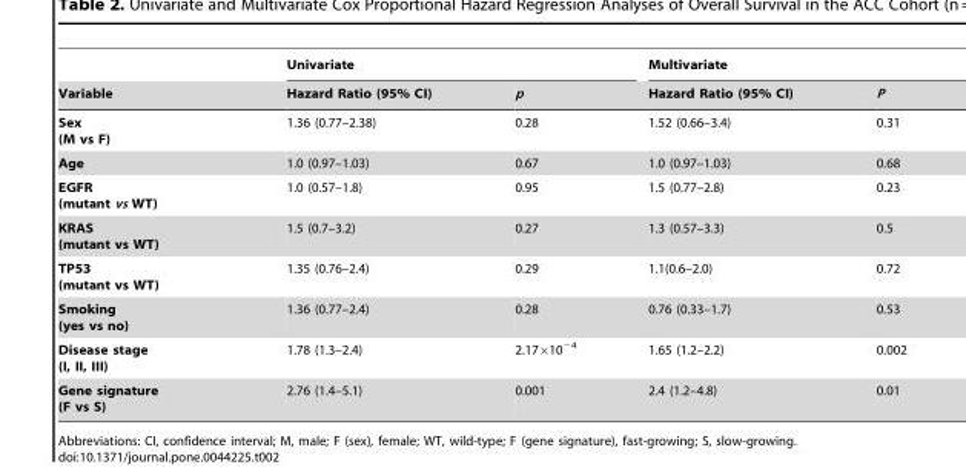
<table><thead><tr><td rowspan="2">Variable</td><td colspan="2">Univariate</td><td colspan="2">Multivariate</td></tr><tr><td>Hazard Ratio (95% CI)</td><td>p</td><td>Hazard Ratio (95% CI)</td><td>P</td></tr></thead><tbody><tr><td>Sex (M vs F)</td><td>1.36 (0.77–2.38)</td><td>0.28</td><td>1.52 (0.66–3.4)</td><td>0.31</td></tr><tr><td>Age</td><td>1.0 (0.97–1.03)</td><td>0.67</td><td>1.0 (0.97–1.03)</td><td>0.68</td></tr><tr><td>EGFR (mutant vs WT)</td><td>1.0 (0.57–1.8)</td><td>0.95</td><td>1.5 (0.77–2.8)</td><td>0.23</td></tr><tr><td>KRAS (mutant vs WT)</td><td>1.5 (0.7–3.2)</td><td>0.27</td><td>1.3 (0.57–3.3)</td><td>0.5</td></tr><tr><td>TP53 (mutant vs WT)</td><td>1.35 (0.76–2.4)</td><td>0.29</td><td>1.1(0.6–2.0)</td><td>0.72</td></tr><tr><td>Smoking (yes vs no)</td><td>1.36 (0.77–2.4)</td><td>0.28</td><td>0.76 (0.33–1.7)</td><td>0.53</td></tr><tr><td>Disease stage (I, II, III)</td><td>1.78 (1.3–2.4)</td><td>2.17×10<sup>−4</sup></td><td>1.65 (1.2–2.2)</td><td>0.002</td></tr><tr><td>Gene signature (F vs S)</td><td>2.76 (1.4–5.1)</td><td>0.001</td><td>2.4 (1.2–4.8)</td><td>0.01</td></tr></tbody></table>